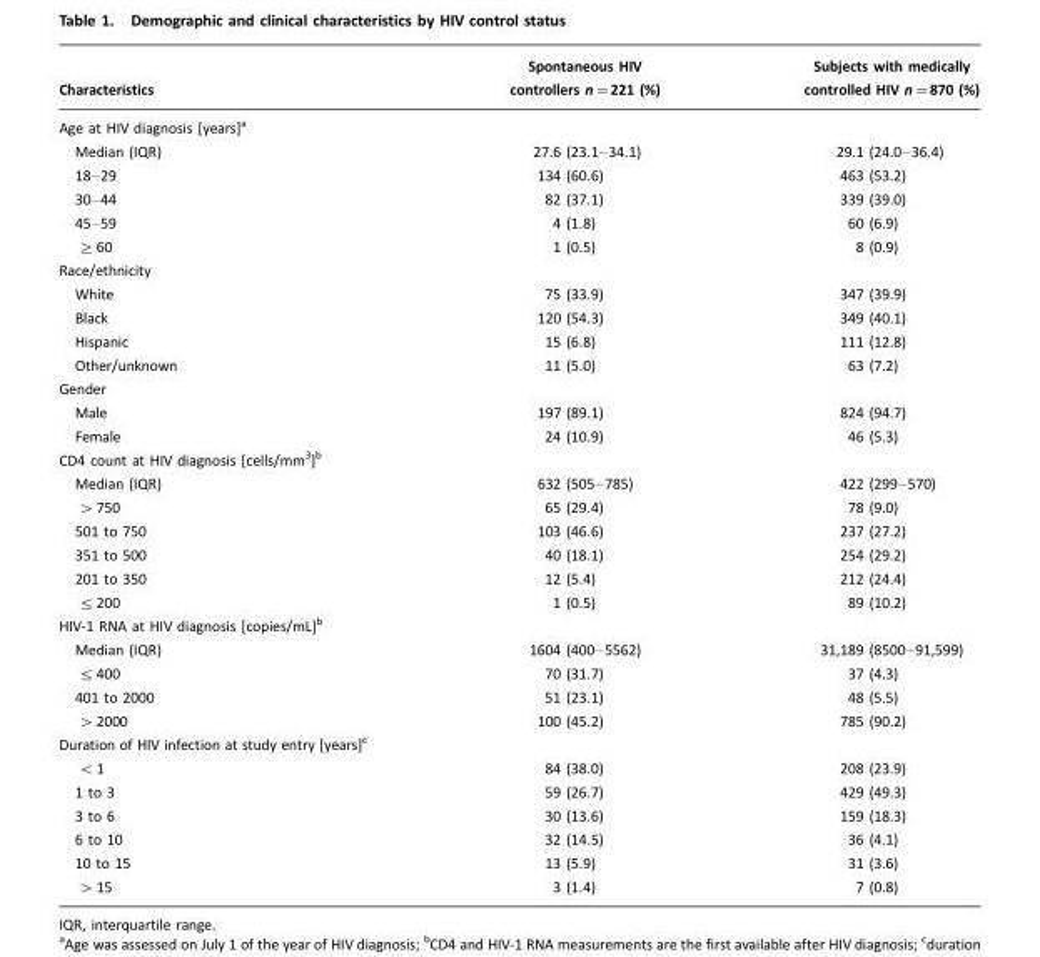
<table><thead><tr><td>Characteristics</td><td>Spontaneous HIV controllers n=221 (%)</td><td>Subjects with medically controlled HIV n=870 (%)</td></tr></thead><tbody><tr><td colspan="3">Age at HIV diagnosis [years]<sup>a</sup></td></tr><tr><td>Median (IQR)</td><td>27.6 (23.1–34.1)</td><td>29.1 (24.0–36.4)</td></tr><tr><td>18–29</td><td>134 (60.6)</td><td>463 (53.2)</td></tr><tr><td>30–44</td><td>82 (37.1)</td><td>339 (39.0)</td></tr><tr><td>45–59</td><td>4 (1.8)</td><td>60 (6.9)</td></tr><tr><td>≥60</td><td>1 (0.5)</td><td>8 (0.9)</td></tr><tr><td colspan="3">Race/ethnicity</td></tr><tr><td>White</td><td>75 (33.9)</td><td>347 (39.9)</td></tr><tr><td>Black</td><td>120 (54.3)</td><td>349 (40.1)</td></tr><tr><td>Hispanic</td><td>15 (6.8)</td><td>111 (12.8)</td></tr><tr><td>Other/unknown</td><td>11 (5.0)</td><td>63 (7.2)</td></tr><tr><td colspan="3">Gender</td></tr><tr><td>Male</td><td>197 (89.1)</td><td>824 (94.7)</td></tr><tr><td>Female</td><td>24 (10.9)</td><td>46 (5.3)</td></tr><tr><td colspan="3">CD4 count at HIV diagnosis [cells/mm<sup>3</sup>]<sup>b</sup></td></tr><tr><td>Median (IQR)</td><td>632 (505–785)</td><td>422 (299–570)</td></tr><tr><td>&gt;750</td><td>65 (29.4)</td><td>78 (9.0)</td></tr><tr><td>501 to 750</td><td>103 (46.6)</td><td>237 (27.2)</td></tr><tr><td>351 to 500</td><td>40 (18.1)</td><td>254 (29.2)</td></tr><tr><td>201 to 350</td><td>12 (5.4)</td><td>212 (24.4)</td></tr><tr><td>≤200</td><td>1 (0.5)</td><td>89 (10.2)</td></tr><tr><td colspan="3">HIV-1 RNA at HIV diagnosis [copies/mL]<sup>b</sup></td></tr><tr><td>Median (IQR)</td><td>1604 (400–5562)</td><td>31,189 (8500–91,599)</td></tr><tr><td>≤400</td><td>70 (31.7)</td><td>37 (4.3)</td></tr><tr><td>401 to 2000</td><td>51 (23.1)</td><td>48 (5.5)</td></tr><tr><td>&gt;2000</td><td>100 (45.2)</td><td>785 (90.2)</td></tr><tr><td colspan="3">Duration of HIV infection at study entry [years]<sup>c</sup></td></tr><tr><td>&lt;1</td><td>84 (38.0)</td><td>208 (23.9)</td></tr><tr><td>1 to 3</td><td>59 (26.7)</td><td>429 (49.3)</td></tr><tr><td>3 to 6</td><td>30 (13.6)</td><td>159 (18.3)</td></tr><tr><td>6 to 10</td><td>32 (14.5)</td><td>36 (4.1)</td></tr><tr><td>10 to 15</td><td>13 (5.9)</td><td>31 (3.6)</td></tr><tr><td>&gt;15</td><td>3 (1.4)</td><td>7 (0.8)</td></tr></tbody></table>